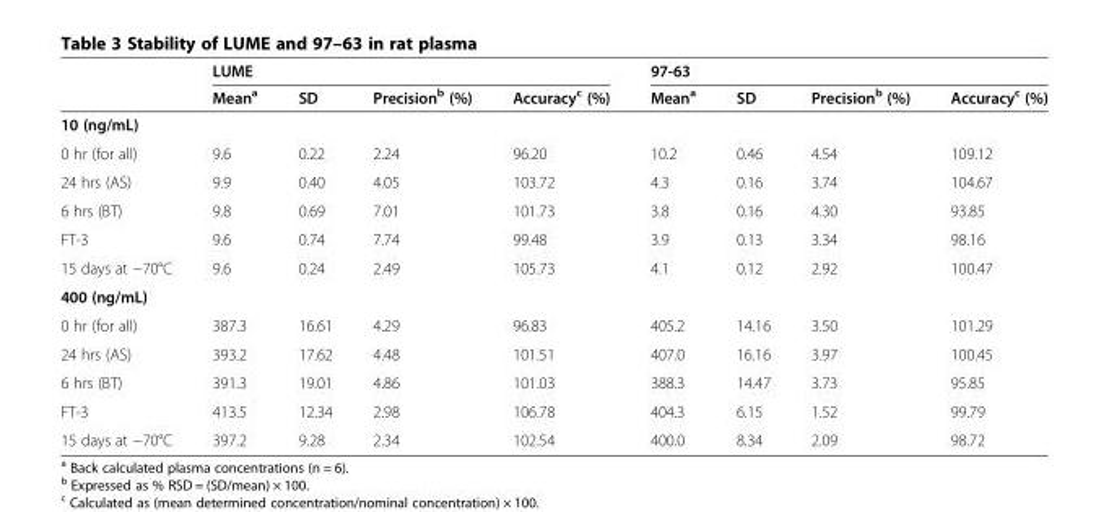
<table><thead><tr><td rowspan="2"></td><td colspan="4">LUME</td><td colspan="4">97-63</td></tr><tr><td>Mean<sup>a</sup></td><td>SD</td><td>Precision<sup>b</sup> (%)</td><td>Accuracy<sup>c</sup> (%)</td><td>Mean<sup>a</sup></td><td>SD</td><td>Precision<sup>b</sup> (%)</td><td>Accuracy<sup>c</sup> (%)</td></tr></thead><tbody><tr><td colspan="9">10 (ng/mL)</td></tr><tr><td>0 hr (for all)</td><td>9.6</td><td>0.22</td><td>2.24</td><td>96.20</td><td>10.2</td><td>0.46</td><td>4.54</td><td>109.12</td></tr><tr><td>24 hrs (AS)</td><td>9.9</td><td>0.40</td><td>4.05</td><td>103.72</td><td>4.3</td><td>0.16</td><td>3.74</td><td>104.67</td></tr><tr><td>6 hrs (BT)</td><td>9.8</td><td>0.69</td><td>7.01</td><td>101.73</td><td>3.8</td><td>0.16</td><td>4.30</td><td>93.85</td></tr><tr><td>FT-3</td><td>9.6</td><td>0.74</td><td>7.74</td><td>99.48</td><td>3.9</td><td>0.13</td><td>3.34</td><td>98.16</td></tr><tr><td>15 days at −70°C</td><td>9.6</td><td>0.24</td><td>2.49</td><td>105.73</td><td>4.1</td><td>0.12</td><td>2.92</td><td>100.47</td></tr><tr><td colspan="9">400 (ng/mL)</td></tr><tr><td>0 hr (for all)</td><td>387.3</td><td>16.61</td><td>4.29</td><td>96.83</td><td>405.2</td><td>14.16</td><td>3.50</td><td>101.29</td></tr><tr><td>24 hrs (AS)</td><td>393.2</td><td>17.62</td><td>4.48</td><td>101.51</td><td>407.0</td><td>16.16</td><td>3.97</td><td>100.45</td></tr><tr><td>6 hrs (BT)</td><td>391.3</td><td>19.01</td><td>4.86</td><td>101.03</td><td>388.3</td><td>14.47</td><td>3.73</td><td>95.85</td></tr><tr><td>FT-3</td><td>413.5</td><td>12.34</td><td>2.98</td><td>106.78</td><td>404.3</td><td>6.15</td><td>1.52</td><td>99.79</td></tr><tr><td>15 days at −70°C</td><td>397.2</td><td>9.28</td><td>2.34</td><td>102.54</td><td>400.0</td><td>8.34</td><td>2.09</td><td>98.72</td></tr></tbody></table>